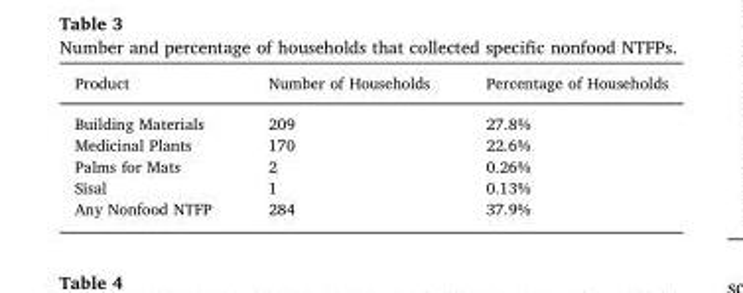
<table><thead><tr><td>Product</td><td>Number of Households</td><td>Percentage of Households</td></tr></thead><tbody><tr><td>Building Materials</td><td>209</td><td>27.8%</td></tr><tr><td>Medicinal Plants</td><td>170</td><td>22.6%</td></tr><tr><td>Palms for Mats</td><td>2</td><td>0.26%</td></tr><tr><td>Sisal</td><td>1</td><td>0.13%</td></tr><tr><td>Any Nonfood NTFP</td><td>284</td><td>37.9%</td></tr></tbody></table>